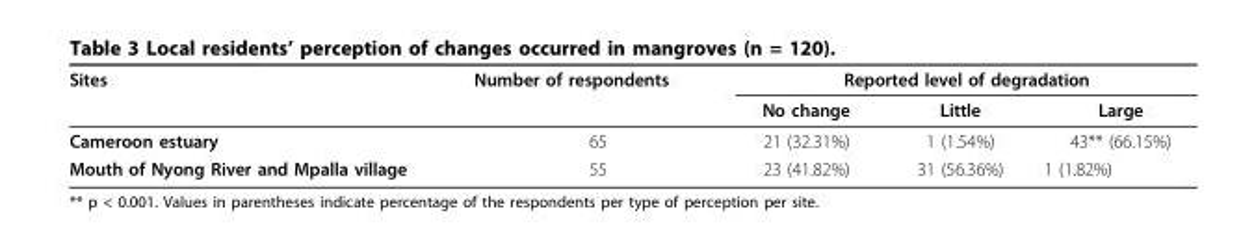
<table><thead><tr><td rowspan="2">Sites</td><td rowspan="2">Number of respondents</td><td colspan="3">Reported level of degradation</td></tr><tr><td>No change</td><td>Little</td><td>Large</td></tr></thead><tbody><tr><td>Cameroon estuary</td><td>65</td><td>21 (32.31%)</td><td>1 (1.54%)</td><td>43** (66.15%)</td></tr><tr><td>Mouth of Nyong River and Mpalla village</td><td>55</td><td>23 (41.82%)</td><td>31 (56.36%)</td><td>1 (1.82%)</td></tr></tbody></table>